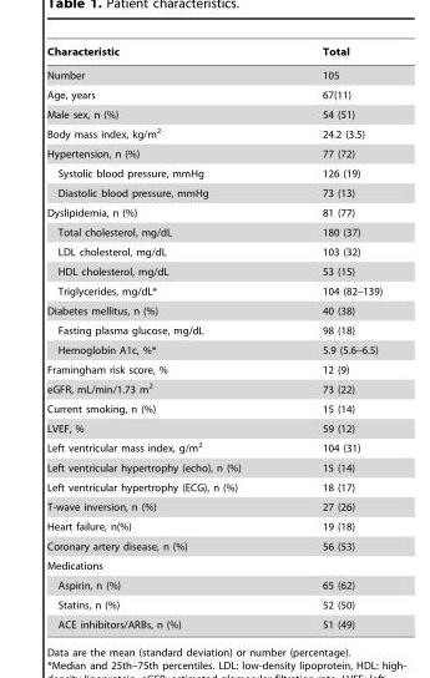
<table><thead><tr><td>Characteristic</td><td>Total</td></tr></thead><tbody><tr><td>Number</td><td>105</td></tr><tr><td>Age, years</td><td>67(11)</td></tr><tr><td>Male sex, n (%)</td><td>54 (51)</td></tr><tr><td>Body mass index, kg/m<sup>2</sup></td><td>24.2 (3.5)</td></tr><tr><td>Hypertension, n (%)</td><td>77 (72)</td></tr><tr><td>Systolic blood pressure, mmHg</td><td>126 (19)</td></tr><tr><td>Diastolic blood pressure, mmHg</td><td>73 (13)</td></tr><tr><td>Dyslipidemia, n (%)</td><td>81 (77)</td></tr><tr><td>Total cholesterol, mg/dL</td><td>180 (37)</td></tr><tr><td>LDL cholesterol, mg/dL</td><td>103 (32)</td></tr><tr><td>HDL cholesterol, mg/dL</td><td>53 (15)</td></tr><tr><td>Triglycerides, mg/dL*</td><td>104 (82–139)</td></tr><tr><td>Diabetes mellitus, n (%)</td><td>40 (38)</td></tr><tr><td>Fasting plasma glucose, mg/dL</td><td>98 (18)</td></tr><tr><td>Hemoglobin A1c, %*</td><td>5.9 (5.6–6.5)</td></tr><tr><td>Framingham risk score, %</td><td>12 (9)</td></tr><tr><td>eGFR, mL/min/1.73 m<sup>2</sup></td><td>73 (22)</td></tr><tr><td>Current smoking, n (%)</td><td>15 (14)</td></tr><tr><td>LVEF, %</td><td>59 (12)</td></tr><tr><td>Left ventricular mass index, g/m<sup>2</sup></td><td>104 (31)</td></tr><tr><td>Left ventricular hypertrophy (echo), n (%)</td><td>15 (14)</td></tr><tr><td>Left ventricular hypertrophy (ECG), n (%)</td><td>18 (17)</td></tr><tr><td>T-wave inversion, n (%)</td><td>27 (26)</td></tr><tr><td>Heart failure, n(%)</td><td>19 (18)</td></tr><tr><td>Coronary artery disease, n (%)</td><td>56 (53)</td></tr><tr><td colspan="2">Medications</td></tr><tr><td>Aspirin, n (%)</td><td>65 (62)</td></tr><tr><td>Statins, n (%)</td><td>52 (50)</td></tr><tr><td>ACE inhibitors/ARBs, n (%)</td><td>51 (49)</td></tr></tbody></table>